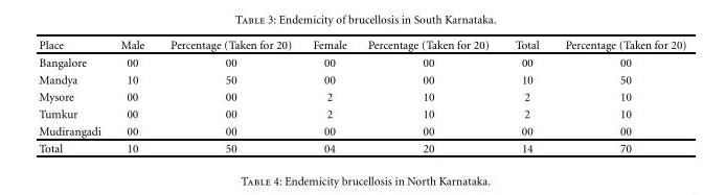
<table><thead><tr><td>Place</td><td>Male</td><td>Percentage (Taken for 20)</td><td>Female</td><td>Percentage (Taken for 20)</td><td>Total</td><td>Percentage (Taken for 20)</td></tr></thead><tbody><tr><td>Bangalore</td><td>00</td><td>00</td><td>00</td><td>00</td><td>00</td><td>00</td></tr><tr><td>Mandya</td><td>10</td><td>50</td><td>00</td><td>00</td><td>10</td><td>50</td></tr><tr><td>Mysore</td><td>00</td><td>00</td><td>2</td><td>10</td><td>2</td><td>10</td></tr><tr><td>Tumkur</td><td>00</td><td>00</td><td>2</td><td>10</td><td>2</td><td>10</td></tr><tr><td>Mudirangadi</td><td>00</td><td>00</td><td>00</td><td>00</td><td>00</td><td>00</td></tr><tr><td>Total</td><td>10</td><td>50</td><td>04</td><td>20</td><td>14</td><td>70</td></tr></tbody></table>